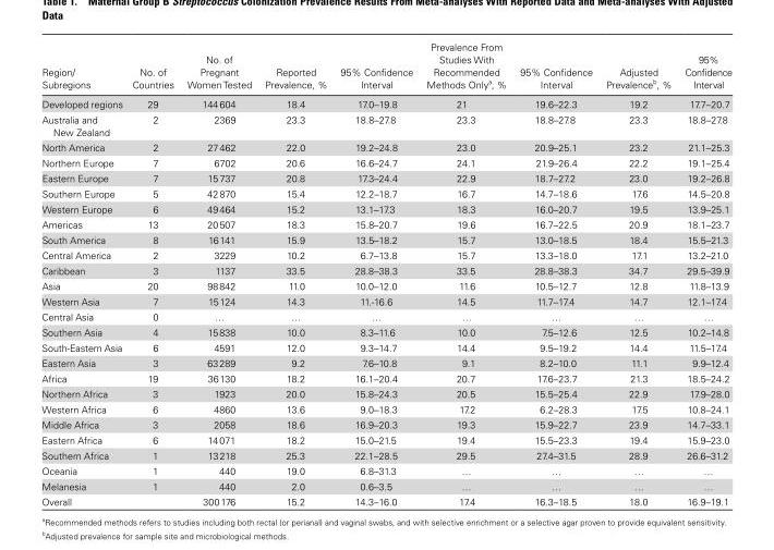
<table><thead><tr><td>Region/ Subregions</td><td>No. of Countries</td><td>No. of Pregnant Women Tested</td><td>Reported Prevalence, %</td><td>95% Confidence Interval</td><td>Prevalence From Studies With Recommended Methods Only<sup>a</sup>, %</td><td>95% Confidence Interval</td><td>Adjusted Prevalence<sup>b</sup>, %</td><td>95% Confidence Interval</td></tr></thead><tbody><tr><td>Developed regions</td><td>29</td><td>144 604</td><td>18.4</td><td>17.0–19.8</td><td>21</td><td>19.6–22.3</td><td>19.2</td><td>17.7–20.7</td></tr><tr><td>Australia and New Zealand</td><td>2</td><td>2369</td><td>23.3</td><td>18.8–27.8</td><td>23.3</td><td>18.8–27.8</td><td>23.3</td><td>18.8–27.8</td></tr><tr><td>North America</td><td>2</td><td>27 462</td><td>22.0</td><td>19.2–24.8</td><td>23.0</td><td>20.9–25.1</td><td>23.2</td><td>21.1–25.3</td></tr><tr><td>Northern Europe</td><td>7</td><td>6702</td><td>20.6</td><td>16.6–24.7</td><td>24.1</td><td>21.9–26.4</td><td>22.2</td><td>19.1–25.4</td></tr><tr><td>Eastern Europe</td><td>7</td><td>15 737</td><td>20.8</td><td>17.3–24.4</td><td>22.9</td><td>18.7–27.2</td><td>23.0</td><td>19.2–26.8</td></tr><tr><td>Southern Europe</td><td>5</td><td>42 870</td><td>15.4</td><td>12.2–18.7</td><td>16.7</td><td>14.7–18.6</td><td>17.6</td><td>14.5–20.8</td></tr><tr><td>Western Europe</td><td>6</td><td>49 464</td><td>15.2</td><td>13.1–17.3</td><td>18.3</td><td>16.0–20.7</td><td>19.5</td><td>13.9–25.1</td></tr><tr><td>Americas</td><td>13</td><td>20 507</td><td>18.3</td><td>15.8–20.7</td><td>19.6</td><td>16.7–22.5</td><td>20.9</td><td>18.1–23.7</td></tr><tr><td>South America</td><td>8</td><td>16 141</td><td>15.9</td><td>13.5–18.2</td><td>15.7</td><td>13.0–18.5</td><td>18.4</td><td>15.5–21.3</td></tr><tr><td>Central America</td><td>2</td><td>3229</td><td>10.2</td><td>6.7–13.8</td><td>15.7</td><td>13.3–18.0</td><td>17.1</td><td>13.2–21.0</td></tr><tr><td>Caribbean</td><td>3</td><td>1137</td><td>33.5</td><td>28.8–38.3</td><td>33.5</td><td>28.8–38.3</td><td>34.7</td><td>29.5–39.9</td></tr><tr><td>Asia</td><td>20</td><td>98 842</td><td>11.0</td><td>10.0–12.0</td><td>11.6</td><td>10.5–12.7</td><td>12.8</td><td>11.8–13.9</td></tr><tr><td>Western Asia</td><td>7</td><td>15 124</td><td>14.3</td><td>11.-16.6</td><td>14.5</td><td>11.7–17.4</td><td>14.7</td><td>12.1–17.4</td></tr><tr><td>Central Asia</td><td>0</td><td>…</td><td>…</td><td>…</td><td>…</td><td>…</td><td>…</td><td>…</td></tr><tr><td>Southern Asia</td><td>4</td><td>15 838</td><td>10.0</td><td>8.3–11.6</td><td>10.0</td><td>7.5–12.6</td><td>12.5</td><td>10.2–14.8</td></tr><tr><td>South-Eastern Asia</td><td>6</td><td>4591</td><td>12.0</td><td>9.3–14.7</td><td>14.4</td><td>9.5–19.2</td><td>14.4</td><td>11.5–17.4</td></tr><tr><td>Eastern Asia</td><td>3</td><td>63 289</td><td>9.2</td><td>7.6–10.8</td><td>9.1</td><td>8.2–10.0</td><td>11.1</td><td>9.9–12.4</td></tr><tr><td>Africa</td><td>19</td><td>36 130</td><td>18.2</td><td>16.1–20.4</td><td>20.7</td><td>17.6–23.7</td><td>21.3</td><td>18.5–24.2</td></tr><tr><td>Northern Africa</td><td>3</td><td>1923</td><td>20.0</td><td>15.8–24.3</td><td>20.5</td><td>15.5–25.4</td><td>22.9</td><td>17.9–28.0</td></tr><tr><td>Western Africa</td><td>6</td><td>4860</td><td>13.6</td><td>9.0–18.3</td><td>17.2</td><td>6.2–28.3</td><td>17.5</td><td>10.8–24.1</td></tr><tr><td>Middle Africa</td><td>3</td><td>2058</td><td>18.6</td><td>16.9–20.3</td><td>19.3</td><td>15.9–22.7</td><td>23.9</td><td>14.7–33.1</td></tr><tr><td>Eastern Africa</td><td>6</td><td>14 071</td><td>18.2</td><td>15.0–21.5</td><td>19.4</td><td>15.5–23.3</td><td>19.4</td><td>15.9–23.0</td></tr><tr><td>Southern Africa</td><td>1</td><td>13 218</td><td>25.3</td><td>22.1–28.5</td><td>29.5</td><td>27.4–31.5</td><td>28.9</td><td>26.6–31.2</td></tr><tr><td>Oceania</td><td>1</td><td>440</td><td>19.0</td><td>6.8–31.3</td><td>…</td><td>…</td><td>…</td><td>…</td></tr><tr><td>Melanesia</td><td>1</td><td>440</td><td>2.0</td><td>0.6–3.5</td><td>…</td><td>…</td><td>…</td><td>…</td></tr><tr><td>Overall</td><td></td><td>300 176</td><td>15.2</td><td>14.3–16.0</td><td>17.4</td><td>16.3–18.5</td><td>18.0</td><td>16.9–19.1</td></tr></tbody></table>